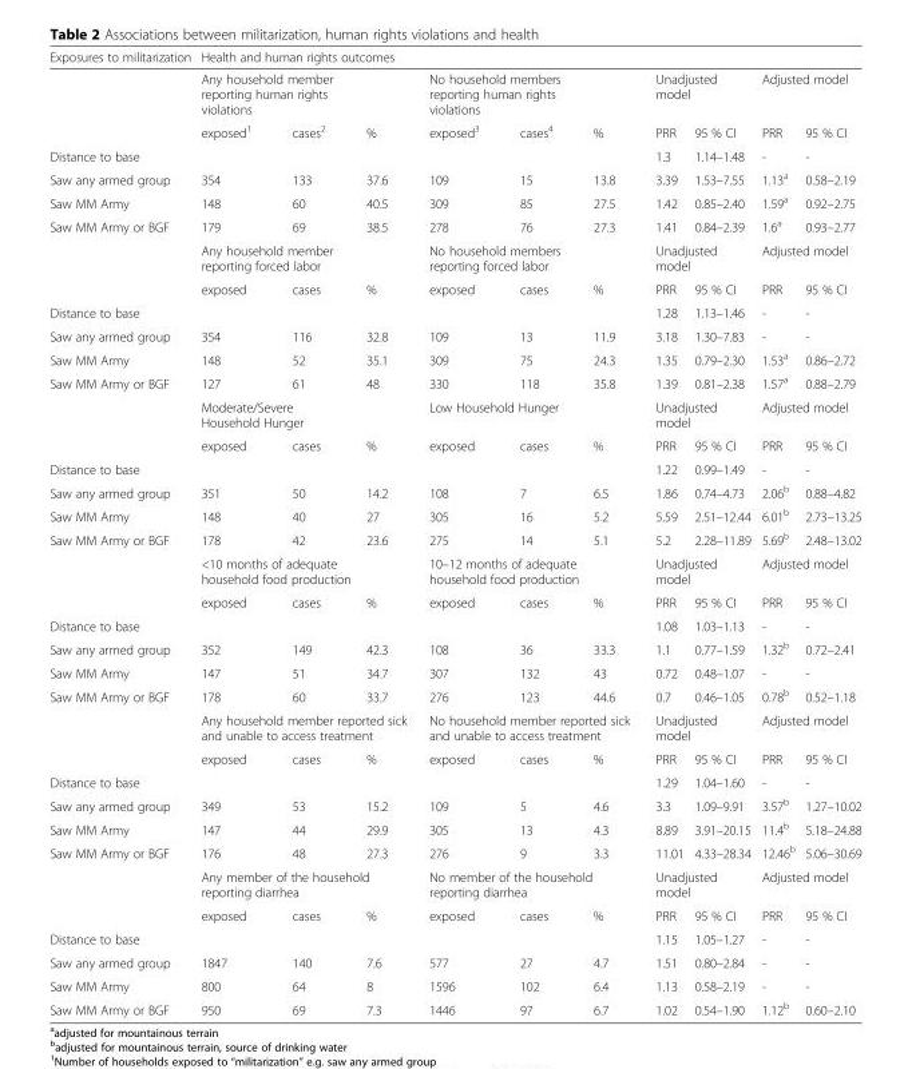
<table><thead><tr><td rowspan="3">Exposures to militarization</td><td colspan="10">Health and human rights outcomes</td></tr><tr><td colspan="3">Any household member reporting human rights violations</td><td colspan="3">No household members reporting human rights violations</td><td colspan="2">Unadjusted model</td><td colspan="2">Adjusted model</td></tr><tr><td>exposed<sup>1</sup></td><td>cases<sup>2</sup></td><td>%</td><td>exposed<sup>3</sup></td><td>cases<sup>4</sup></td><td>%</td><td>PRR</td><td>95 % CI</td><td>PRR</td><td>95 % CI</td></tr></thead><tbody><tr><td>Distance to base</td><td colspan="6"></td><td>1.3</td><td>1.14–1.48</td><td>-</td><td>-</td></tr><tr><td>Saw any armed group</td><td>354</td><td>133</td><td>37.6</td><td>109</td><td>15</td><td>13.8</td><td>3.39</td><td>1.53–7.55</td><td>1.13<sup>a</sup></td><td>0.58–2.19</td></tr><tr><td>Saw MM Army</td><td>148</td><td>60</td><td>40.5</td><td>309</td><td>85</td><td>27.5</td><td>1.42</td><td>0.85–2.40</td><td>1.59<sup>a</sup></td><td>0.92–2.75</td></tr><tr><td rowspan="3">Saw MM Army or BGF</td><td>179</td><td>69</td><td>38.5</td><td>278</td><td>76</td><td>27.3</td><td>1.41</td><td>0.84–2.39</td><td>1.6<sup>a</sup></td><td>0.93–2.77</td></tr><tr><td colspan="3">Any household member reporting forced labor</td><td colspan="3">No household members reporting forced labor</td><td colspan="2">Unadjusted model</td><td colspan="2">Adjusted model</td></tr><tr><td>exposed</td><td>cases</td><td>%</td><td>exposed</td><td>cases</td><td>%</td><td>PRR</td><td>95 % CI</td><td>PRR</td><td>95 % CI</td></tr><tr><td>Distance to base</td><td colspan="6"></td><td>1.28</td><td>1.13–1.46</td><td>-</td><td>-</td></tr><tr><td>Saw any armed group</td><td>354</td><td>116</td><td>32.8</td><td>109</td><td>13</td><td>11.9</td><td>3.18</td><td>1.30–7.83</td><td>-</td><td>-</td></tr><tr><td>Saw MM Army</td><td>148</td><td>52</td><td>35.1</td><td>309</td><td>75</td><td>24.3</td><td>1.35</td><td>0.79–2.30</td><td>1.53<sup>a</sup></td><td>0.86–2.72</td></tr><tr><td rowspan="3">Saw MM Army or BGF</td><td>127</td><td>61</td><td>48</td><td>330</td><td>118</td><td>35.8</td><td>1.39</td><td>0.81–2.38</td><td>1.57<sup>a</sup></td><td>0.88–2.79</td></tr><tr><td colspan="3">Moderate/Severe Household Hunger</td><td colspan="3">Low Household Hunger</td><td colspan="2">Unadjusted model</td><td colspan="2">Adjusted model</td></tr><tr><td>exposed</td><td>cases</td><td>%</td><td>exposed</td><td>cases</td><td>%</td><td>PRR</td><td>95 % CI</td><td>PRR</td><td>95 % CI</td></tr><tr><td>Distance to base</td><td colspan="6"></td><td>1.22</td><td>0.99–1.49</td><td>-</td><td>-</td></tr><tr><td>Saw any armed group</td><td>351</td><td>50</td><td>14.2</td><td>108</td><td>7</td><td>6.5</td><td>1.86</td><td>0.74–4.73</td><td>2.06<sup>b</sup></td><td>0.88–4.82</td></tr><tr><td>Saw MM Army</td><td>148</td><td>40</td><td>27</td><td>305</td><td>16</td><td>5.2</td><td>5.59</td><td>2.51–12.44</td><td>6.01<sup>b</sup></td><td>2.73–13.25</td></tr><tr><td rowspan="3">Saw MM Army or BGF</td><td>178</td><td>42</td><td>23.6</td><td>275</td><td>14</td><td>5.1</td><td>5.2</td><td>2.28–11.89</td><td>5.69<sup>b</sup></td><td>2.48–13.02</td></tr><tr><td colspan="3">&lt;10 months of adequate household food production</td><td colspan="3">10–12 months of adequate household food production</td><td colspan="2">Unadjusted model</td><td colspan="2">Adjusted model</td></tr><tr><td>exposed</td><td>cases</td><td>%</td><td>exposed</td><td>cases</td><td>%</td><td>PRR</td><td>95 % CI</td><td>PRR</td><td>95 % CI</td></tr><tr><td>Distance to base</td><td colspan="6"></td><td>1.08</td><td>1.03–1.13</td><td>-</td><td>-</td></tr><tr><td>Saw any armed group</td><td>352</td><td>149</td><td>42.3</td><td>108</td><td>36</td><td>33.3</td><td>1.1</td><td>0.77–1.59</td><td>1.32<sup>b</sup></td><td>0.72–2.41</td></tr><tr><td>Saw MM Army</td><td>147</td><td>51</td><td>34.7</td><td>307</td><td>132</td><td>43</td><td>0.72</td><td>0.48–1.07</td><td>-</td><td>-</td></tr><tr><td rowspan="3">Saw MM Army or BGF</td><td>178</td><td>60</td><td>33.7</td><td>276</td><td>123</td><td>44.6</td><td>0.7</td><td>0.46–1.05</td><td>0.78<sup>b</sup></td><td>0.52–1.18</td></tr><tr><td colspan="3">Any household member reported sick and unable to access treatment</td><td colspan="3">No household member reported sick and unable to access treatment</td><td colspan="2">Unadjusted model</td><td colspan="2">Adjusted model</td></tr><tr><td>exposed</td><td>cases</td><td>%</td><td>exposed</td><td>cases</td><td>%</td><td>PRR</td><td>95 % CI</td><td>PRR</td><td>95 % CI</td></tr><tr><td>Distance to base</td><td colspan="6"></td><td>1.29</td><td>1.04–1.60</td><td>-</td><td>-</td></tr><tr><td>Saw any armed group</td><td>349</td><td>53</td><td>15.2</td><td>109</td><td>5</td><td>4.6</td><td>3.3</td><td>1.09–9.91</td><td>3.57<sup>b</sup></td><td>1.27–10.02</td></tr><tr><td>Saw MM Army</td><td>147</td><td>44</td><td>29.9</td><td>305</td><td>13</td><td>4.3</td><td>8.89</td><td>3.91–20.15</td><td>11.4<sup>b</sup></td><td>5.18–24.88</td></tr><tr><td rowspan="3">Saw MM Army or BGF</td><td>176</td><td>48</td><td>27.3</td><td>276</td><td>9</td><td>3.3</td><td>11.01</td><td>4.33–28.34</td><td>12.46<sup>b</sup></td><td>5.06–30.69</td></tr><tr><td colspan="3">Any member of the household reporting diarrhea</td><td colspan="3">No member of the household reporting diarrhea</td><td colspan="2">Unadjusted model</td><td colspan="2">Adjusted model</td></tr><tr><td>exposed</td><td>cases</td><td>%</td><td>exposed</td><td>cases</td><td>%</td><td>PRR</td><td>95 % CI</td><td>PRR</td><td>95 % CI</td></tr><tr><td>Distance to base</td><td colspan="6"></td><td>1.15</td><td>1.05–1.27</td><td>-</td><td>-</td></tr><tr><td>Saw any armed group</td><td>1847</td><td>140</td><td>7.6</td><td>577</td><td>27</td><td>4.7</td><td>1.51</td><td>0.80–2.84</td><td>-</td><td>-</td></tr><tr><td>Saw MM Army</td><td>800</td><td>64</td><td>8</td><td>1596</td><td>102</td><td>6.4</td><td>1.13</td><td>0.58–2.19</td><td>-</td><td>-</td></tr><tr><td>Saw MM Army or BGF</td><td>950</td><td>69</td><td>7.3</td><td>1446</td><td>97</td><td>6.7</td><td>1.02</td><td>0.54–1.90</td><td>1.12<sup>b</sup></td><td>0.60–2.10</td></tr></tbody></table>